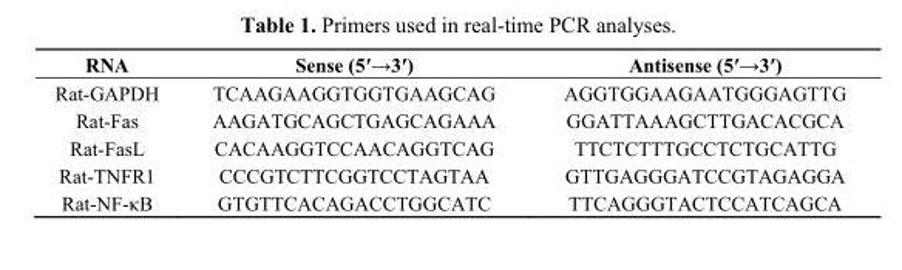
<table><thead><tr><td>RNA</td><td>Sense (5ʹ→3ʹ)</td><td>Antisense (5ʹ→3ʹ)</td></tr></thead><tbody><tr><td>Rat-GAPDH</td><td>TCAAGAAGGTGGTGAAGCAG</td><td>AGGTGGAAGAATGGGAGTTG</td></tr><tr><td>Rat-Fas</td><td>AAGATGCAGCTGAGCAGAAA</td><td>GGATTAAAGCTTGACACGCA</td></tr><tr><td>Rat-FasL</td><td>CACAAGGTCCAACAGGTCAG</td><td>TTCTCTTTGCCTCTGCATTG</td></tr><tr><td>Rat-TNFR1</td><td>CCCGTCTTCGGTCCTAGTAA</td><td>GTTGAGGGATCCGTAGAGGA</td></tr><tr><td>Rat-NF-κB</td><td>GTGTTCACAGACCTGGCATC</td><td>TTCAGGGTACTCCATCAGCA</td></tr></tbody></table>